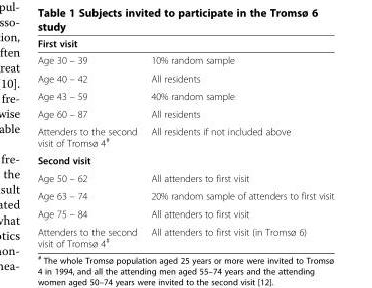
<table><thead><tr><td colspan="2">First visit</td></tr><tr><td>Age 30 – 39</td><td>10% random sample</td></tr></thead><tbody><tr><td>Age 40 – 42</td><td>All residents</td></tr><tr><td>Age 43 – 59</td><td>40% random sample</td></tr><tr><td>Age 60 – 87</td><td>All residents</td></tr><tr><td>Attenders to the second visit of Tromsø 4<sup>#</sup></td><td>All residents if not included above</td></tr><tr><td colspan="2">Second visit</td></tr><tr><td>Age 50 – 62</td><td>All attenders to first visit</td></tr><tr><td>Age 63 – 74</td><td>20% random sample of attenders to first visit</td></tr><tr><td>Age 75 – 84</td><td>All attenders to first visit</td></tr><tr><td>Attenders to the second visit of Tromsø 4<sup>#</sup></td><td>All attenders to first visit (in Tromsø 6)</td></tr></tbody></table>